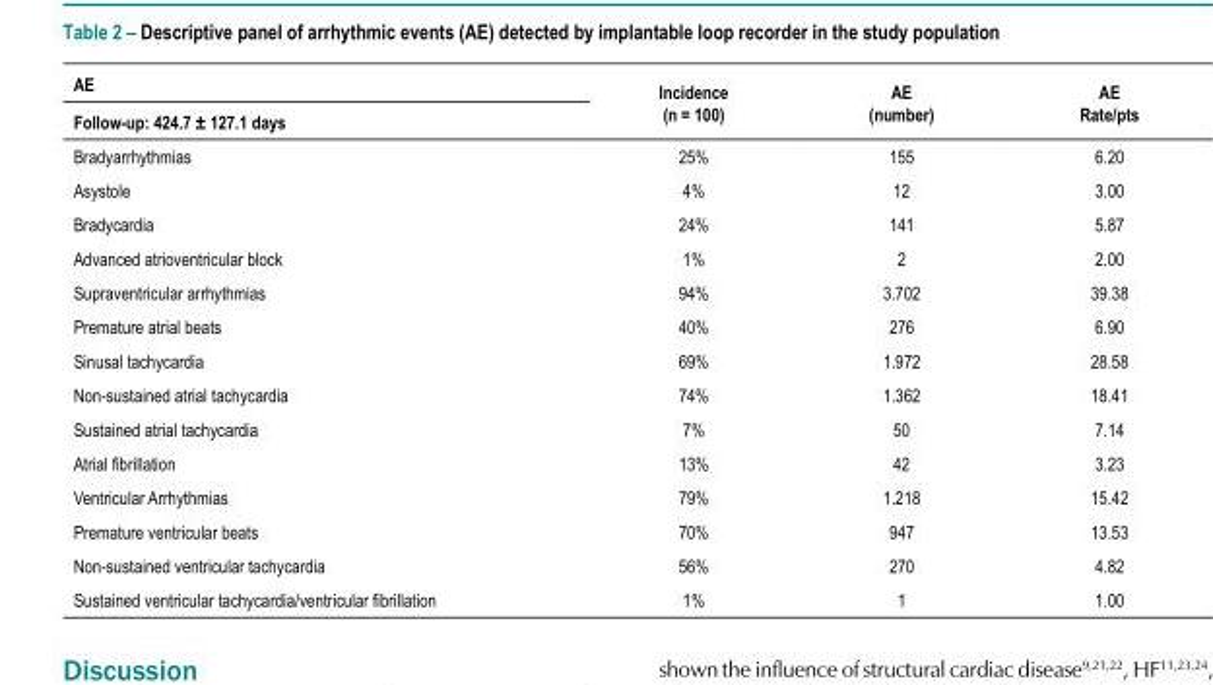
<table><thead><tr><td rowspan="2">AE Follow-up: 424.7 ± 127.1 days</td><td rowspan="2">Incidence (n = 100)</td><td rowspan="2">AE (number)</td><td rowspan="2">AE Rate/pts</td></tr><tr></tr></thead><tbody><tr><td>Bradyarrhythmias</td><td>25%</td><td>155</td><td>6.20</td></tr><tr><td>Asystole</td><td>4%</td><td>12</td><td>3.00</td></tr><tr><td>Bradycardia</td><td>24%</td><td>141</td><td>5.87</td></tr><tr><td>Advanced atrioventricular block</td><td>1%</td><td>2</td><td>2.00</td></tr><tr><td>Supraventricular arrhythmias</td><td>94%</td><td>3.702</td><td>39.38</td></tr><tr><td>Premature atrial beats</td><td>40%</td><td>276</td><td>6.90</td></tr><tr><td>Sinusal tachycardia</td><td>69%</td><td>1.972</td><td>28.58</td></tr><tr><td>Non-sustained atrial tachycardia</td><td>74%</td><td>1.362</td><td>18.41</td></tr><tr><td>Sustained atrial tachycardia</td><td>7%</td><td>50</td><td>7.14</td></tr><tr><td>Atrial fibrillation</td><td>13%</td><td>42</td><td>3.23</td></tr><tr><td>Ventricular Arrhythmias</td><td>79%</td><td>1.218</td><td>15.42</td></tr><tr><td>Premature ventricular beats</td><td>70%</td><td>947</td><td>13.53</td></tr><tr><td>Non-sustained ventricular tachycardia</td><td>56%</td><td>270</td><td>4.82</td></tr><tr><td>Sustained ventricular tachycardia/ventricular fibrillation</td><td>1%</td><td>1</td><td>1.00</td></tr></tbody></table>